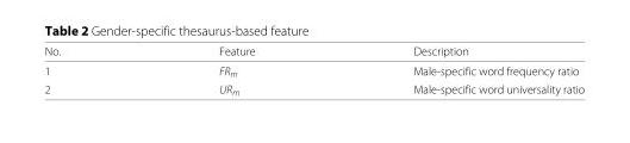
<table><thead><tr><td>No.</td><td>Feature</td><td>Description</td></tr></thead><tbody><tr><td>1</td><td>FR<sub>m</sub></td><td>Male-specific word frequency ratio</td></tr><tr><td>2</td><td>UR<sub>m</sub></td><td>Male-specific word universality ratio</td></tr></tbody></table>